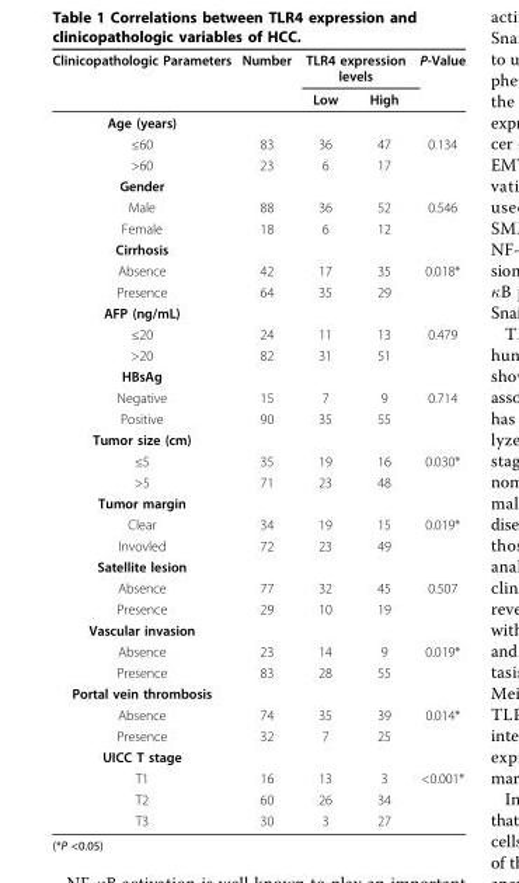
<table><thead><tr><td rowspan="2">Clinicopathologic Parameters</td><td rowspan="2">Number</td><td colspan="2">TLR4 expression levels</td><td rowspan="2">P-Value</td></tr><tr><td>Low</td><td>High</td></tr></thead><tbody><tr><td colspan="5">Age (years)</td></tr><tr><td>≤60</td><td>83</td><td>36</td><td>47</td><td>0.134</td></tr><tr><td>&gt;60</td><td>23</td><td>6</td><td>17</td><td></td></tr><tr><td colspan="5">Gender</td></tr><tr><td>Male</td><td>88</td><td>36</td><td>52</td><td>0.546</td></tr><tr><td>Female</td><td>18</td><td>6</td><td>12</td><td></td></tr><tr><td colspan="5">Cirrhosis</td></tr><tr><td>Absence</td><td>42</td><td>17</td><td>35</td><td>0.018*</td></tr><tr><td>Presence</td><td>64</td><td>35</td><td>29</td><td></td></tr><tr><td colspan="5">AFP (ng/mL)</td></tr><tr><td>≤20</td><td>24</td><td>11</td><td>13</td><td>0.479</td></tr><tr><td>&gt;20</td><td>82</td><td>31</td><td>51</td><td></td></tr><tr><td colspan="5">HBsAg</td></tr><tr><td>Negative</td><td>15</td><td>7</td><td>9</td><td>0.714</td></tr><tr><td>Positive</td><td>90</td><td>35</td><td>55</td><td></td></tr><tr><td colspan="5">Tumor size (cm)</td></tr><tr><td>≤5</td><td>35</td><td>19</td><td>16</td><td>0.030*</td></tr><tr><td>&gt;5</td><td>71</td><td>23</td><td>48</td><td></td></tr><tr><td colspan="5">Tumor margin</td></tr><tr><td>Clear</td><td>34</td><td>19</td><td>15</td><td>0.019*</td></tr><tr><td>Invovled</td><td>72</td><td>23</td><td>49</td><td></td></tr><tr><td colspan="5">Satellite lesion</td></tr><tr><td>Absence</td><td>77</td><td>32</td><td>45</td><td>0.507</td></tr><tr><td>Presence</td><td>29</td><td>10</td><td>19</td><td></td></tr><tr><td colspan="5">Vascular invasion</td></tr><tr><td>Absence</td><td>23</td><td>14</td><td>9</td><td>0.019*</td></tr><tr><td>Presence</td><td>83</td><td>28</td><td>55</td><td></td></tr><tr><td colspan="5">Portal vein thrombosis</td></tr><tr><td>Absence</td><td>74</td><td>35</td><td>39</td><td>0.014*</td></tr><tr><td>Presence</td><td>32</td><td>7</td><td>25</td><td></td></tr><tr><td colspan="5">UICC T stage</td></tr><tr><td>T1</td><td>16</td><td>13</td><td>3</td><td>&lt;0.001*</td></tr><tr><td>T2</td><td>60</td><td>26</td><td>34</td><td></td></tr><tr><td>T3</td><td>30</td><td>3</td><td>27</td><td></td></tr></tbody></table>